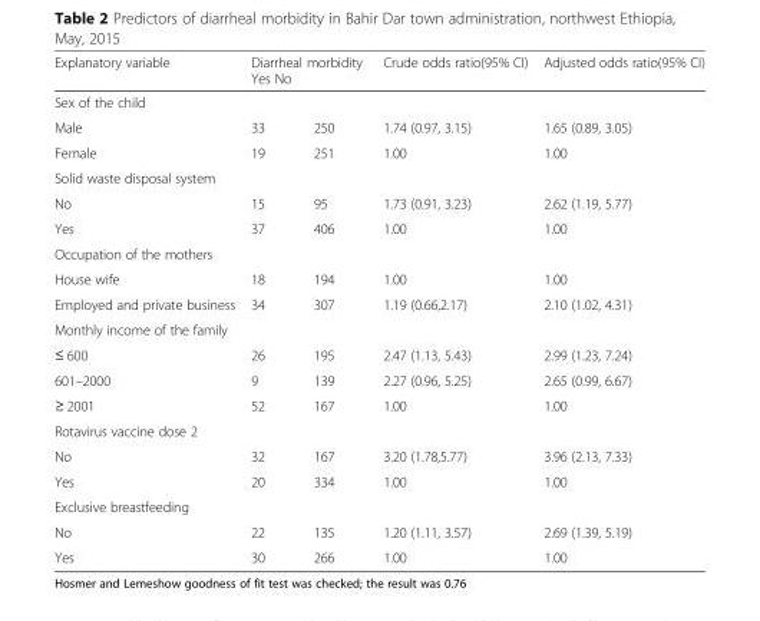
<table><thead><tr><td>Explanatory variable</td><td colspan="2">Diarrheal morbidity Yes No</td><td>Crude odds ratio(95% CI)</td><td>Adjusted odds ratio(95% CI)</td></tr><tr><td colspan="5">Sex of the child</td></tr><tr><td>Male</td><td>33</td><td>250</td><td>1.74 (0.97, 3.15)</td><td>1.65 (0.89, 3.05)</td></tr></thead><tbody><tr><td>Female</td><td>19</td><td>251</td><td>1.00</td><td>1.00</td></tr><tr><td colspan="5">Solid waste disposal system</td></tr><tr><td>No</td><td>15</td><td>95</td><td>1.73 (0.91, 3.23)</td><td>2.62 (1.19, 5.77)</td></tr><tr><td>Yes</td><td>37</td><td>406</td><td>1.00</td><td>1.00</td></tr><tr><td colspan="5">Occupation of the mothers</td></tr><tr><td>House wife</td><td>18</td><td>194</td><td>1.00</td><td>1.00</td></tr><tr><td>Employed and private business</td><td>34</td><td>307</td><td>1.19 (0.66,2.17)</td><td>2.10 (1.02, 4.31)</td></tr><tr><td colspan="5">Monthly income of the family</td></tr><tr><td>≤ 600</td><td>26</td><td>195</td><td>2.47 (1.13, 5.43)</td><td>2.99 (1.23, 7.24)</td></tr><tr><td>601–2000</td><td>9</td><td>139</td><td>2.27 (0.96, 5.25)</td><td>2.65 (0.99, 6.67)</td></tr><tr><td>≥ 2001</td><td>52</td><td>167</td><td>1.00</td><td>1.00</td></tr><tr><td colspan="5">Rotavirus vaccine dose 2</td></tr><tr><td>No</td><td>32</td><td>167</td><td>3.20 (1.78,5.77)</td><td>3.96 (2.13, 7.33)</td></tr><tr><td>Yes</td><td>20</td><td>334</td><td>1.00</td><td>1.00</td></tr><tr><td colspan="5">Exclusive breastfeeding</td></tr><tr><td>No</td><td>22</td><td>135</td><td>1.20 (1.11, 3.57)</td><td>2.69 (1.39, 5.19)</td></tr><tr><td>Yes</td><td>30</td><td>266</td><td>1.00</td><td>1.00</td></tr></tbody></table>